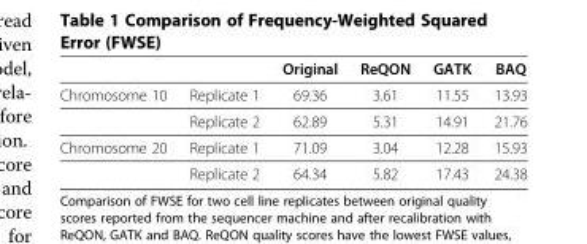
<table><thead><tr><td></td><td></td><td>Original</td><td>ReQON</td><td>GATK</td><td>BAQ</td></tr></thead><tbody><tr><td rowspan="2">Chromosome 10</td><td>Replicate 1</td><td>69.36</td><td>3.61</td><td>11.55</td><td>13.93</td></tr><tr><td>Replicate 2</td><td>62.89</td><td>5.31</td><td>14.91</td><td>21.76</td></tr><tr><td rowspan="2">Chromosome 20</td><td>Replicate 1</td><td>71.09</td><td>3.04</td><td>12.28</td><td>15.93</td></tr><tr><td>Replicate 2</td><td>64.34</td><td>5.82</td><td>17.43</td><td>24.38</td></tr></tbody></table>